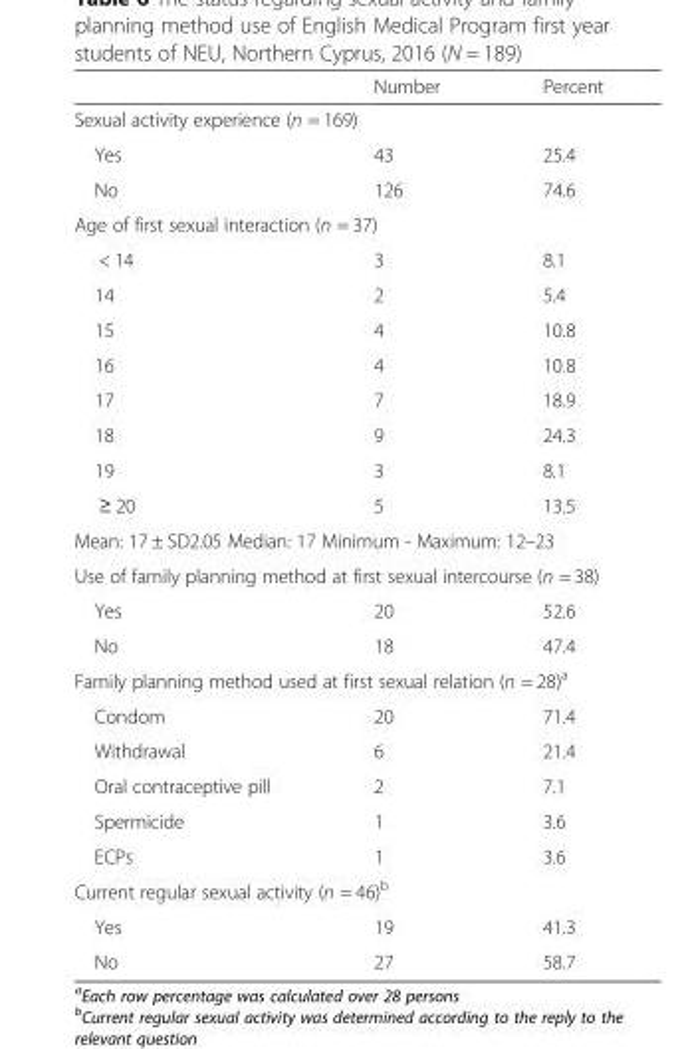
<table><thead><tr><td></td><td>Number</td><td>Percent</td></tr></thead><tbody><tr><td colspan="3">Sexual activity experience (n = 169)</td></tr><tr><td>Yes</td><td>43</td><td>25.4</td></tr><tr><td>No</td><td>126</td><td>74.6</td></tr><tr><td colspan="3">Age of first sexual interaction (n = 37)</td></tr><tr><td>&lt; 14</td><td>3</td><td>8.1</td></tr><tr><td>14</td><td>2</td><td>5.4</td></tr><tr><td>15</td><td>4</td><td>10.8</td></tr><tr><td>16</td><td>4</td><td>10.8</td></tr><tr><td>17</td><td>7</td><td>18.9</td></tr><tr><td>18</td><td>9</td><td>24.3</td></tr><tr><td>19</td><td>3</td><td>8.1</td></tr><tr><td>≥ 20</td><td>5</td><td>13.5</td></tr><tr><td colspan="3">Mean: 17 ± SD2.05 Median: 17 Minimum - Maximum: 12–23</td></tr><tr><td colspan="3">Use of family planning method at first sexual intercourse (n = 38)</td></tr><tr><td>Yes</td><td>20</td><td>52.6</td></tr><tr><td>No</td><td>18</td><td>47.4</td></tr><tr><td colspan="3">Family planning method used at first sexual relation (n = 28)<sup>a</sup></td></tr><tr><td>Condom</td><td>20</td><td>71.4</td></tr><tr><td>Withdrawal</td><td>6</td><td>21.4</td></tr><tr><td>Oral contraceptive pill</td><td>2</td><td>7.1</td></tr><tr><td>Spermicide</td><td>1</td><td>3.6</td></tr><tr><td>ECPs</td><td>1</td><td>3.6</td></tr><tr><td colspan="3">Current regular sexual activity (n = 46)<sup>b</sup></td></tr><tr><td>Yes</td><td>19</td><td>41.3</td></tr><tr><td>No</td><td>27</td><td>58.7</td></tr></tbody></table>